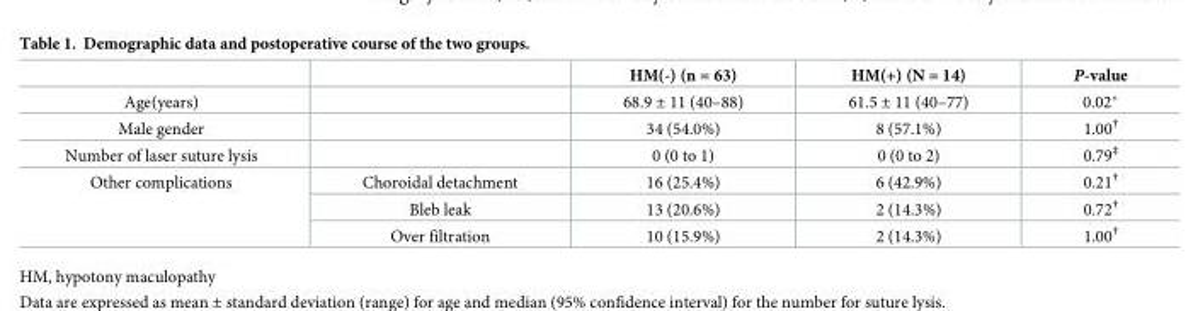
<table><thead><tr><td></td><td></td><td>HM(-) (n = 63)</td><td>HM(+) (N = 14)</td><td>P-value</td></tr></thead><tbody><tr><td>Age(years)</td><td></td><td>68.9 ± 11 (40–88)</td><td>61.5 ± 11 (40–77)</td><td>0.02*</td></tr><tr><td>Male gender</td><td></td><td>34 (54.0%)</td><td>8 (57.1%)</td><td>1.00<sup>†</sup></td></tr><tr><td>Number of laser suture lysis</td><td></td><td>0 (0 to 1)</td><td>0 (0 to 2)</td><td>0.79<sup>‡</sup></td></tr><tr><td rowspan="3">Other complications</td><td>Choroidal detachment</td><td>16 (25.4%)</td><td>6 (42.9%)</td><td>0.21<sup>†</sup></td></tr><tr><td>Bleb leak</td><td>13 (20.6%)</td><td>2 (14.3%)</td><td>0.72<sup>†</sup></td></tr><tr><td>Over filtration</td><td>10 (15.9%)</td><td>2 (14.3%)</td><td>1.00<sup>†</sup></td></tr></tbody></table>